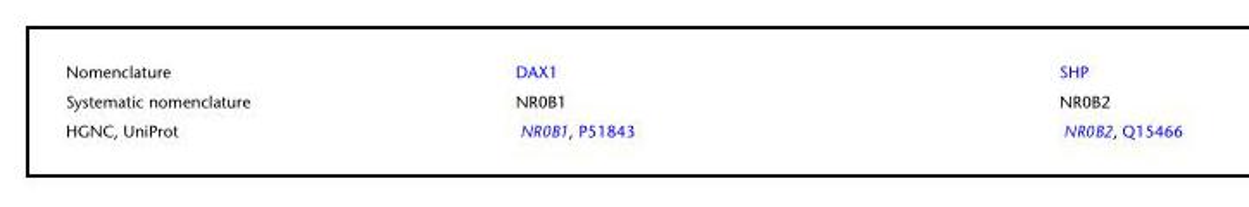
<table><tbody><tr><td>Nomenclature</td><td>DAX1</td><td>SHP</td></tr><tr><td>Systematic nomenclature</td><td>NR0B1</td><td>NR0B2</td></tr><tr><td>HGNC, UniProt</td><td>NR0B1, P51843</td><td>NR0B2, Q15466</td></tr></tbody></table>